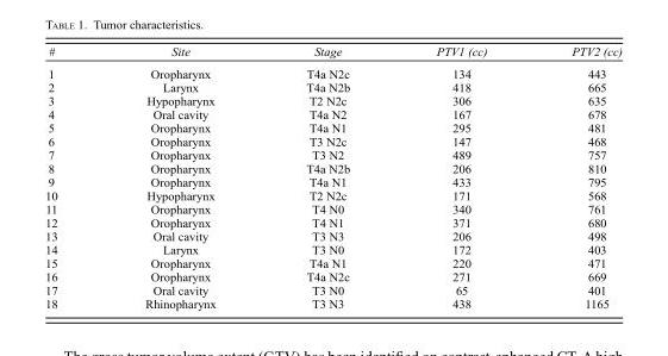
<table><thead><tr><td>#</td><td>Site</td><td>Stage</td><td>PTV1 (cc)</td><td>PTV2 (cc)</td></tr></thead><tbody><tr><td>1</td><td>Oropharynx</td><td>T4a N2c</td><td>134</td><td>443</td></tr><tr><td>2</td><td>Larynx</td><td>T4a N2b</td><td>418</td><td>665</td></tr><tr><td>3</td><td>Hypopharynx</td><td>T2 N2c</td><td>306</td><td>635</td></tr><tr><td>4</td><td>Oral cavity</td><td>T4a N2</td><td>167</td><td>678</td></tr><tr><td>5</td><td>Oropharynx</td><td>T4a N1</td><td>295</td><td>481</td></tr><tr><td>6</td><td>Oropharynx</td><td>T3 N2c</td><td>147</td><td>468</td></tr><tr><td>7</td><td>Oropharynx</td><td>T3 N2</td><td>489</td><td>757</td></tr><tr><td>8</td><td>Oropharynx</td><td>T4a N2b</td><td>206</td><td>810</td></tr><tr><td>9</td><td>Oropharynx</td><td>T4a N1</td><td>433</td><td>795</td></tr><tr><td>10</td><td>Hypopharynx</td><td>T2 N2c</td><td>171</td><td>568</td></tr><tr><td>11</td><td>Oropharynx</td><td>T4 N0</td><td>340</td><td>761</td></tr><tr><td>12</td><td>Oropharynx</td><td>T4 N1</td><td>371</td><td>680</td></tr><tr><td>13</td><td>Oral cavity</td><td>T3 N3</td><td>206</td><td>498</td></tr><tr><td>14</td><td>Larynx</td><td>T3 N0</td><td>172</td><td>403</td></tr><tr><td>15</td><td>Oropharynx</td><td>T4a N1</td><td>220</td><td>471</td></tr><tr><td>16</td><td>Oropharynx</td><td>T4a N2c</td><td>271</td><td>669</td></tr><tr><td>17</td><td>Oral cavity</td><td>T3 N0</td><td>65</td><td>401</td></tr><tr><td>18</td><td>Rhinopharynx</td><td>T3 N3</td><td>438</td><td>1165</td></tr></tbody></table>